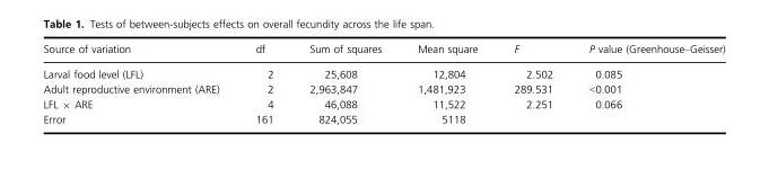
<table><thead><tr><td>Source of variation</td><td>df</td><td>Sum of squares</td><td>Mean square</td><td>F</td><td>P value (Greenhouse–Geisser)</td></tr></thead><tbody><tr><td>Larval food level (LFL)</td><td>2</td><td>25,608</td><td>12,804</td><td>2.502</td><td>0.085</td></tr><tr><td>Adult reproductive environment (ARE)</td><td>2</td><td>2,963,847</td><td>1,481,923</td><td>289.531</td><td>&lt;0.001</td></tr><tr><td>LFL × ARE</td><td>4</td><td>46,088</td><td>11,522</td><td>2.251</td><td>0.066</td></tr><tr><td>Error</td><td>161</td><td>824,055</td><td>5118</td><td></td><td></td></tr></tbody></table>